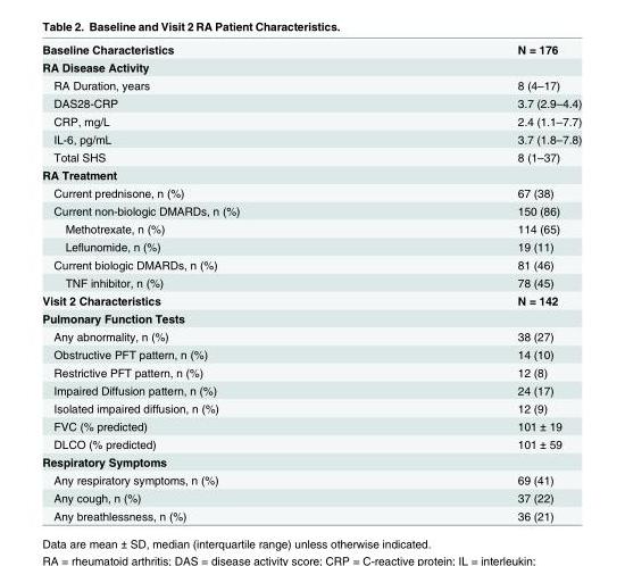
<table><tbody><tr><td>Baseline Characteristics</td><td>N = 176</td></tr><tr><td colspan="2">RA Disease Activity</td></tr><tr><td>RA Duration, years</td><td>8 (4–17)</td></tr><tr><td>DAS28-CRP</td><td>3.7 (2.9–4.4)</td></tr><tr><td>CRP, mg/L</td><td>2.4 (1.1–7.7)</td></tr><tr><td>IL-6, pg/mL</td><td>3.7 (1.8–7.8)</td></tr><tr><td>Total SHS</td><td>8 (1–37)</td></tr><tr><td colspan="2">RA Treatment</td></tr><tr><td>Current prednisone, n (%)</td><td>67 (38)</td></tr><tr><td>Current non-biologic DMARDs, n (%)</td><td>150 (86)</td></tr><tr><td>Methotrexate, n (%)</td><td>114 (65)</td></tr><tr><td>Leflunomide, n (%)</td><td>19 (11)</td></tr><tr><td>Current biologic DMARDs, n (%)</td><td>81 (46)</td></tr><tr><td>TNF inhibitor, n (%)</td><td>78 (45)</td></tr><tr><td>Visit 2 Characteristics</td><td>N = 142</td></tr><tr><td colspan="2">Pulmonary Function Tests</td></tr><tr><td>Any abnormality, n (%)</td><td>38 (27)</td></tr><tr><td>Obstructive PFT pattern, n (%)</td><td>14 (10)</td></tr><tr><td>Restrictive PFT pattern, n (%)</td><td>12 (8)</td></tr><tr><td>Impaired Diffusion pattern, n (%)</td><td>24 (17)</td></tr><tr><td>Isolated impaired diffusion, n (%)</td><td>12 (9)</td></tr><tr><td>FVC (% predicted)</td><td>101 ± 19</td></tr><tr><td>DLCO (% predicted)</td><td>101 ± 59</td></tr><tr><td colspan="2">Respiratory Symptoms</td></tr><tr><td>Any respiratory symptoms, n (%)</td><td>69 (41)</td></tr><tr><td>Any cough, n (%)</td><td>37 (22)</td></tr><tr><td>Any breathlessness, n (%)</td><td>36 (21)</td></tr></tbody></table>